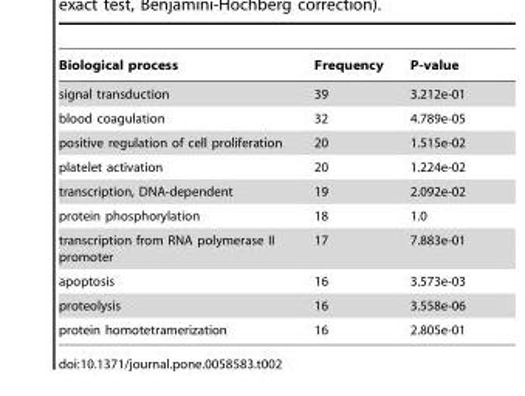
<table><thead><tr><td>Biological process</td><td>Frequency</td><td>P-value</td></tr></thead><tbody><tr><td>signal transduction</td><td>39</td><td>3.212e-01</td></tr><tr><td>blood coagulation</td><td>32</td><td>4.789e-05</td></tr><tr><td>positive regulation of cell proliferation</td><td>20</td><td>1.515e-02</td></tr><tr><td>platelet activation</td><td>20</td><td>1.224e-02</td></tr><tr><td>transcription, DNA-dependent</td><td>19</td><td>2.092e-02</td></tr><tr><td>protein phosphorylation</td><td>18</td><td>1.0</td></tr><tr><td>transcription from RNA polymerase II promoter</td><td>17</td><td>7.883e-01</td></tr><tr><td>apoptosis</td><td>16</td><td>3.573e-03</td></tr><tr><td>proteolysis</td><td>16</td><td>3.558e-06</td></tr><tr><td>protein homotetramerization</td><td>16</td><td>2.805e-01</td></tr></tbody></table>